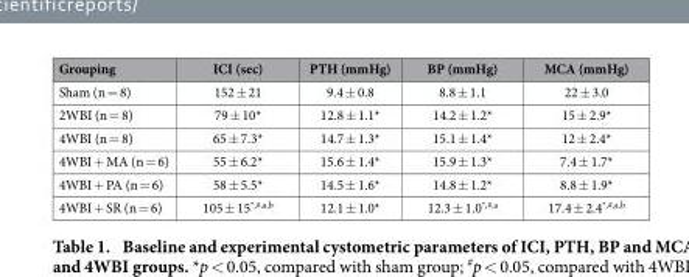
<table><thead><tr><td>Grouping</td><td>ICI (sec)</td><td>PTH (mmHg)</td><td>BP (mmHg)</td><td>MCA (mmHg)</td></tr></thead><tbody><tr><td>Sham (n = 8)</td><td>152 ± 21</td><td>9.4 ± 0.8</td><td>8.8 ± 1.1</td><td>22 ± 3.0</td></tr><tr><td>2WBI (n = 8)</td><td>79 ± 10*</td><td>12.8 ± 1.1*</td><td>14.2 ± 1.2*</td><td>15 ± 2.9*</td></tr><tr><td>4WBI (n = 8)</td><td>65 ± 7.3*</td><td>14.7 ± 1.3*</td><td>15.1 ± 1.4*</td><td>12 ± 2.4*</td></tr><tr><td>4WBI + MA (n = 6)</td><td>55 ± 6.2*</td><td>15.6 ± 1.4*</td><td>15.9 ± 1.3*</td><td>7.4 ± 1.7*</td></tr><tr><td>4WBI + PA (n = 6)</td><td>58 ± 5.5*</td><td>14.5 ± 1.6*</td><td>14.8 ± 1.2*</td><td>8.8 ± 1.9*</td></tr><tr><td>4WBI + SR (n = 6)</td><td>105 ± 15*,#,a,b</td><td>12.1 ± 1.0*</td><td>12.3 ± 1.0*,#,a</td><td>17.4 ± 2.4*,#,a,b</td></tr></tbody></table>